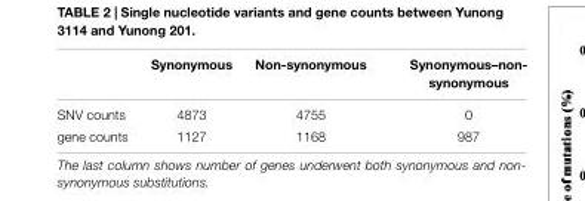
<table><thead><tr><td></td><td>Synonymous</td><td>Non-synonymous</td><td>Synonymous–non- synonymous</td></tr></thead><tbody><tr><td>SNV counts</td><td>4873</td><td>4755</td><td>0</td></tr><tr><td>gene counts</td><td>1127</td><td>1168</td><td>987</td></tr></tbody></table>